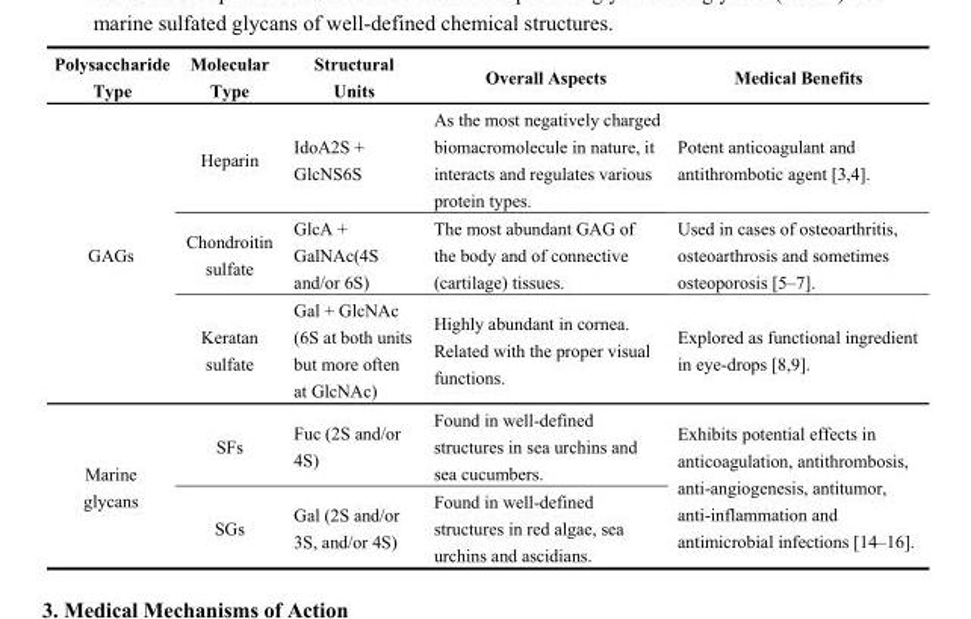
<table><thead><tr><td>Polysaccharide Type</td><td>Molecular Type</td><td>Structural Units</td><td>Overall Aspects</td><td>Medical Benefits</td></tr></thead><tbody><tr><td rowspan="3">GAGs</td><td>Heparin</td><td>IdoA2S + GlcNS6S</td><td>As the most negatively charged biomacromolecule in nature, it interacts and regulates various protein types.</td><td>Potent anticoagulant and antithrombotic agent [3,4].</td></tr><tr><td>Chondroitin sulfate</td><td>GlcA + GalNAc(4S and/or 6S)</td><td>The most abundant GAG of the body and of connective (cartilage) tissues.</td><td>Used in cases of osteoarthritis, osteoarthrosis and sometimes osteoporosis [5–7].</td></tr><tr><td>Keratan sulfate</td><td>Gal + GlcNAc (6S at both units but more often at GlcNAc)</td><td>Highly abundant in cornea. Related with the proper visual functions.</td><td>Explored as functional ingredient in eye-drops [8,9].</td></tr><tr><td rowspan="2">Marine glycans</td><td>SFs</td><td>Fuc (2S and/or 4S)</td><td>Found in well-defined structures in sea urchins and sea cucumbers.</td><td rowspan="2">Exhibits potential effects in anticoagulation, antithrombosis, anti-angiogenesis, antitumor, anti-inflammation and antimicrobial infections [14–16].</td></tr><tr><td>SGs</td><td>Gal (2S and/or 3S, and/or 4S)</td><td>Found in well-defined structures in red algae, sea urchins and ascidians.</td></tr></tbody></table>